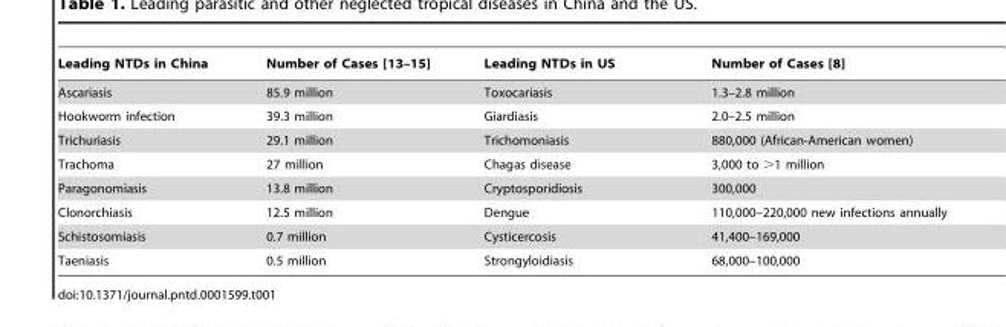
<table><thead><tr><td>Leading NTDs in China</td><td>Number of Cases [13–15]</td><td>Leading NTDs in US</td><td>Number of Cases [8]</td></tr></thead><tbody><tr><td>Ascariasis</td><td>85.9 million</td><td>Toxocariasis</td><td>1.3–2.8 million</td></tr><tr><td>Hookworm infection</td><td>39.3 million</td><td>Giardiasis</td><td>2.0–2.5 million</td></tr><tr><td>Trichuriasis</td><td>29.1 million</td><td>Trichomoniasis</td><td>880,000 (African-American women)</td></tr><tr><td>Trachoma</td><td>27 million</td><td>Chagas disease</td><td>3,000 to &gt;1 million</td></tr><tr><td>Paragonomiasis</td><td>13.8 million</td><td>Cryptosporidiosis</td><td>300,000</td></tr><tr><td>Clonorchiasis</td><td>12.5 million</td><td>Dengue</td><td>110,000–220,000 new infections annually</td></tr><tr><td>Schistosomiasis</td><td>0.7 million</td><td>Cysticercosis</td><td>41,400–169,000</td></tr><tr><td>Taeniasis</td><td>0.5 million</td><td>Strongyloidiasis</td><td>68,000–100,000</td></tr></tbody></table>